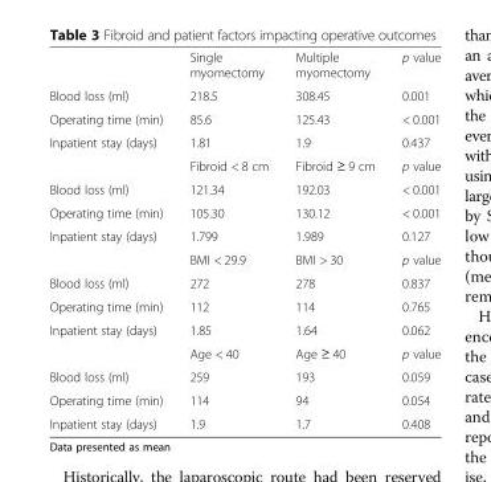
<table><thead><tr><td></td><td>Single myomectomy</td><td>Multiple myomectomy</td><td>p value</td></tr></thead><tbody><tr><td>Blood loss (ml)</td><td>218.5</td><td>308.45</td><td>0.001</td></tr><tr><td>Operating time (min)</td><td>85.6</td><td>125.43</td><td>&lt; 0.001</td></tr><tr><td rowspan="2">Inpatient stay (days)</td><td>1.81</td><td>1.9</td><td>0.437</td></tr><tr><td>Fibroid &lt; 8 cm</td><td>Fibroid ≥ 9 cm</td><td>p value</td></tr><tr><td>Blood loss (ml)</td><td>121.34</td><td>192.03</td><td>&lt; 0.001</td></tr><tr><td>Operating time (min)</td><td>105.30</td><td>130.12</td><td>&lt; 0.001</td></tr><tr><td rowspan="2">Inpatient stay (days)</td><td>1.799</td><td>1.989</td><td>0.127</td></tr><tr><td>BMI &lt; 29.9</td><td>BMI &gt; 30</td><td>p value</td></tr><tr><td>Blood loss (ml)</td><td>272</td><td>278</td><td>0.837</td></tr><tr><td>Operating time (min)</td><td>112</td><td>114</td><td>0.765</td></tr><tr><td rowspan="2">Inpatient stay (days)</td><td>1.85</td><td>1.64</td><td>0.062</td></tr><tr><td>Age &lt; 40</td><td>Age ≥ 40</td><td>p value</td></tr><tr><td>Blood loss (ml)</td><td>259</td><td>193</td><td>0.059</td></tr><tr><td>Operating time (min)</td><td>114</td><td>94</td><td>0.054</td></tr><tr><td>Inpatient stay (days)</td><td>1.9</td><td>1.7</td><td>0.408</td></tr></tbody></table>